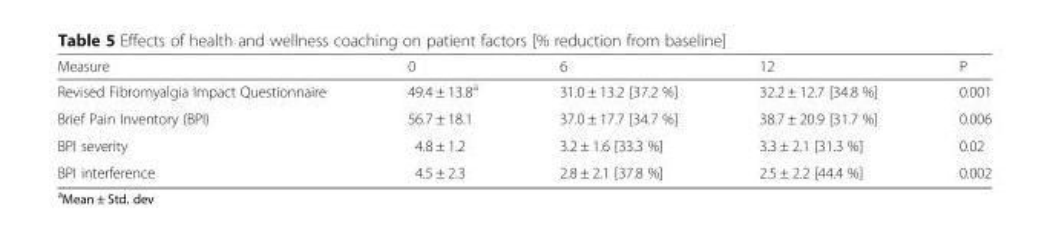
<table><thead><tr><td>Measure</td><td>0</td><td>6</td><td>12</td><td>P</td></tr></thead><tbody><tr><td>Revised Fibromyalgia Impact Questionnaire</td><td>49.4 ± 13.8<sup>a</sup></td><td>31.0 ± 13.2 [37.2 %]</td><td>32.2 ± 12.7 [34.8 %]</td><td>0.001</td></tr><tr><td>Brief Pain Inventory (BPI)</td><td>56.7 ± 18.1</td><td>37.0 ± 17.7 [34.7 %]</td><td>38.7 ± 20.9 [31.7 %]</td><td>0.006</td></tr><tr><td>BPI severity</td><td>4.8 ± 1.2</td><td>3.2 ± 1.6 [33.3 %]</td><td>3.3 ± 2.1 [31.3 %]</td><td>0.02</td></tr><tr><td>BPI interference</td><td>4.5 ± 2.3</td><td>2.8 ± 2.1 [37.8 %]</td><td>2.5 ± 2.2 [44.4 %]</td><td>0.002</td></tr></tbody></table>